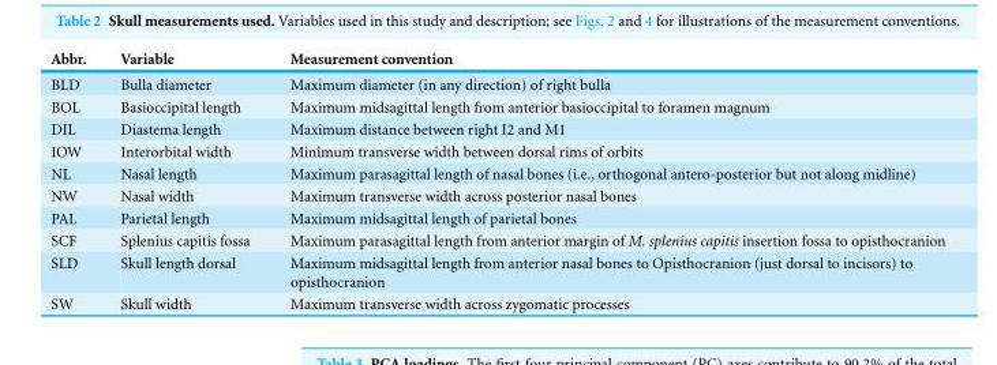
<table><thead><tr><td>Abbr.</td><td>Variable</td><td>Measurement convention</td></tr></thead><tbody><tr><td>BLD</td><td>Bulla diameter</td><td>Maximum diameter (in any direction) of right bulla</td></tr><tr><td>BOL</td><td>Basioccipital length</td><td>Maximum midsagittal length from anterior basioccipital to foramen magnum</td></tr><tr><td>DIL</td><td>Diastema length</td><td>Maximum distance between right I2 and M1</td></tr><tr><td>IOW</td><td>Interorbital width</td><td>Minimum transverse width between dorsal rims of orbits</td></tr><tr><td>NL</td><td>Nasal length</td><td>Maximum parasagittal length of nasal bones (i.e., orthogonal antero-posterior but not along midline)</td></tr><tr><td>NW</td><td>Nasal width</td><td>Maximum transverse width across posterior nasal bones</td></tr><tr><td>PAL</td><td>Parietal length</td><td>Maximum midsagittal length of parietal bones</td></tr><tr><td>SCF</td><td>Splenius capitis fossa</td><td>Maximum parasagittal length from anterior margin of M. splenius capitis insertion fossa to opisthocranion</td></tr><tr><td>SLD</td><td>Skull length dorsal</td><td>Maximum midsagittal length from anterior nasal bones to Opisthocranion (just dorsal to incisors) to opisthocranion</td></tr><tr><td>SW</td><td>Skull width</td><td>Maximum transverse width across zygomatic processes</td></tr></tbody></table>